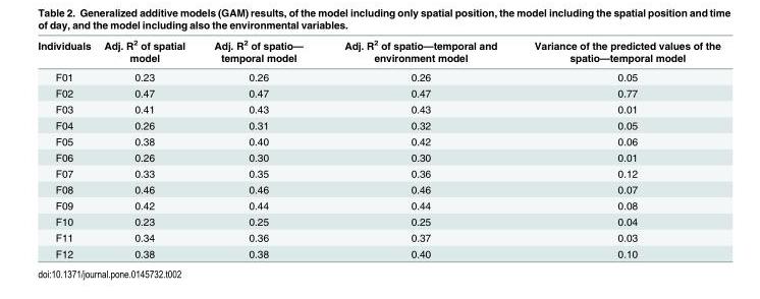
<table><thead><tr><td>Individuals</td><td>Adj. R<sup>2</sup> of spatial model</td><td>Adj. R<sup>2</sup> of spatio— temporal model</td><td>Adj. R<sup>2</sup> of spatio—temporal and environment model</td><td>Variance of the predicted values of the spatio—temporal model</td></tr></thead><tbody><tr><td>F01</td><td>0.23</td><td>0.26</td><td>0.26</td><td>0.05</td></tr><tr><td>F02</td><td>0.47</td><td>0.47</td><td>0.47</td><td>0.77</td></tr><tr><td>F03</td><td>0.41</td><td>0.43</td><td>0.43</td><td>0.01</td></tr><tr><td>F04</td><td>0.26</td><td>0.31</td><td>0.32</td><td>0.05</td></tr><tr><td>F05</td><td>0.38</td><td>0.40</td><td>0.42</td><td>0.06</td></tr><tr><td>F06</td><td>0.26</td><td>0.30</td><td>0.30</td><td>0.01</td></tr><tr><td>F07</td><td>0.33</td><td>0.35</td><td>0.36</td><td>0.12</td></tr><tr><td>F08</td><td>0.46</td><td>0.46</td><td>0.46</td><td>0.07</td></tr><tr><td>F09</td><td>0.42</td><td>0.44</td><td>0.44</td><td>0.08</td></tr><tr><td>F10</td><td>0.23</td><td>0.25</td><td>0.25</td><td>0.04</td></tr><tr><td>F11</td><td>0.34</td><td>0.36</td><td>0.37</td><td>0.03</td></tr><tr><td>F12</td><td>0.38</td><td>0.38</td><td>0.40</td><td>0.10</td></tr></tbody></table>